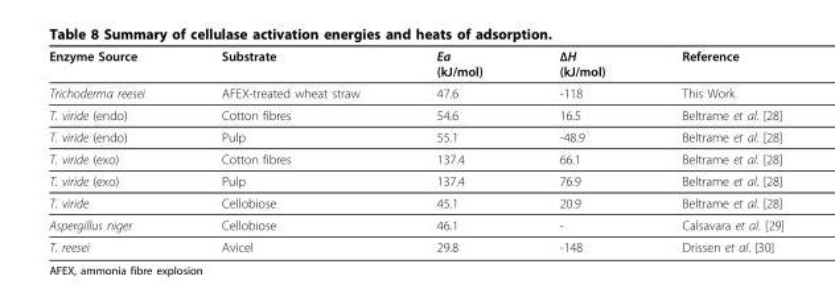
<table><thead><tr><td>Enzyme Source</td><td>Substrate</td><td>Ea (kJ/mol)</td><td>ΔH (kJ/mol)</td><td>Reference</td></tr></thead><tbody><tr><td>Trichoderma reesei</td><td>AFEX-treated wheat straw</td><td>47.6</td><td>-118</td><td>This Work</td></tr><tr><td>T. viride (endo)</td><td>Cotton fibres</td><td>54.6</td><td>16.5</td><td>Beltrame et al. [28]</td></tr><tr><td>T. viride (endo)</td><td>Pulp</td><td>55.1</td><td>-48.9</td><td>Beltrame et al. [28]</td></tr><tr><td>T. viride (exo)</td><td>Cotton fibres</td><td>137.4</td><td>66.1</td><td>Beltrame et al. [28]</td></tr><tr><td>T. viride (exo)</td><td>Pulp</td><td>137.4</td><td>76.9</td><td>Beltrame et al. [28]</td></tr><tr><td>T. viride</td><td>Cellobiose</td><td>45.1</td><td>20.9</td><td>Beltrame et al. [28]</td></tr><tr><td>Aspergillus niger</td><td>Cellobiose</td><td>46.1</td><td>-</td><td>Calsavara et al. [29]</td></tr><tr><td>T. reesei</td><td>Avicel</td><td>29.8</td><td>-148</td><td>Drissen et al. [30]</td></tr></tbody></table>